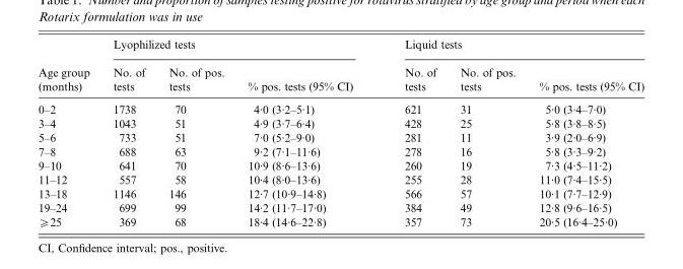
<table><thead><tr><td rowspan="2">Age group (months)</td><td colspan="3">Lyophilized tests</td><td colspan="3">Liquid tests</td></tr><tr><td>No. of tests</td><td>No. of pos. tests</td><td>% pos. tests (95% CI)</td><td>No. of tests</td><td>No. of pos. tests</td><td>% pos. tests (95% CI)</td></tr></thead><tbody><tr><td>0–2</td><td>1738</td><td>70</td><td>4·0 (3·2–5·1)</td><td>621</td><td>31</td><td>5·0 (3·4–7·0)</td></tr><tr><td>3–4</td><td>1043</td><td>51</td><td>4·9 (3·7–6·4)</td><td>428</td><td>25</td><td>5·8 (3·8–8·5)</td></tr><tr><td>5–6</td><td>733</td><td>51</td><td>7·0 (5·2–9·0)</td><td>281</td><td>11</td><td>3·9 (2·0–6·9)</td></tr><tr><td>7–8</td><td>688</td><td>63</td><td>9·2 (7·1–11·6)</td><td>278</td><td>16</td><td>5·8 (3·3–9·2)</td></tr><tr><td>9–10</td><td>641</td><td>70</td><td>10·9 (8·6–13·6)</td><td>260</td><td>19</td><td>7·3 (4·5–11·2)</td></tr><tr><td>11–12</td><td>557</td><td>58</td><td>10·4 (8·0–13·6)</td><td>255</td><td>28</td><td>11·0 (7·4–15·5)</td></tr><tr><td>13–18</td><td>1146</td><td>146</td><td>12·7 (10·9–14·8)</td><td>566</td><td>57</td><td>10·1 (7·7–12·9)</td></tr><tr><td>19–24</td><td>699</td><td>99</td><td>14·2 (11·7–17·0)</td><td>384</td><td>49</td><td>12·8 (9·6–16·5)</td></tr><tr><td>⩾25</td><td>369</td><td>68</td><td>18·4 (14·6–22·8)</td><td>357</td><td>73</td><td>20·5 (16·4–25·0)</td></tr></tbody></table>